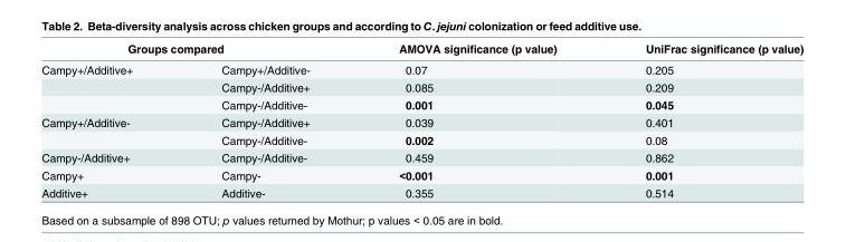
<table><thead><tr><td colspan="2">Groups compared</td><td rowspan="2">AMOVA significance (p value) 0.07</td><td rowspan="2">UniFrac significance (p value) 0.205</td></tr><tr><td>Campy+/Additive+</td><td>Campy+/Additive-</td></tr></thead><tbody><tr><td></td><td>Campy-/Additive+</td><td>0.085</td><td>0.209</td></tr><tr><td></td><td>Campy-/Additive-</td><td>0.001</td><td>0.045</td></tr><tr><td rowspan="2">Campy+/Additive-</td><td>Campy-/Additive+</td><td>0.039</td><td>0.401</td></tr><tr><td>Campy-/Additive-</td><td>0.002</td><td>0.08</td></tr><tr><td>Campy-/Additive+</td><td>Campy-/Additive-</td><td>0.459</td><td>0.862</td></tr><tr><td>Campy+</td><td>Campy-</td><td>&lt;0.001</td><td>0.001</td></tr><tr><td>Additive+</td><td>Additive-</td><td>0.355</td><td>0.514</td></tr></tbody></table>